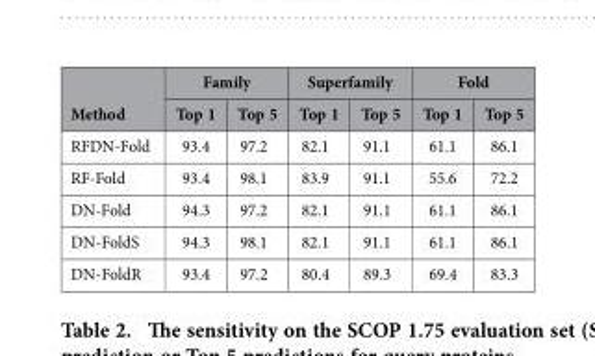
<table><thead><tr><td rowspan="2">Method</td><td colspan="2">Family</td><td colspan="2">Superfamily</td><td colspan="2">Fold</td></tr><tr><td>Top 1</td><td>Top 5</td><td>Top 1</td><td>Top 5</td><td>Top 1</td><td>Top 5</td></tr></thead><tbody><tr><td>RFDN-Fold</td><td>93.4</td><td>97.2</td><td>82.1</td><td>91.1</td><td>61.1</td><td>86.1</td></tr><tr><td>RF-Fold</td><td>93.4</td><td>98.1</td><td>83.9</td><td>91.1</td><td>55.6</td><td>72.2</td></tr><tr><td>DN-Fold</td><td>94.3</td><td>97.2</td><td>82.1</td><td>91.1</td><td>61.1</td><td>86.1</td></tr><tr><td>DN-FoldS</td><td>94.3</td><td>98.1</td><td>82.1</td><td>91.1</td><td>61.1</td><td>86.1</td></tr><tr><td>DN-FoldR</td><td>93.4</td><td>97.2</td><td>80.4</td><td>89.3</td><td>69.4</td><td>83.3</td></tr></tbody></table>